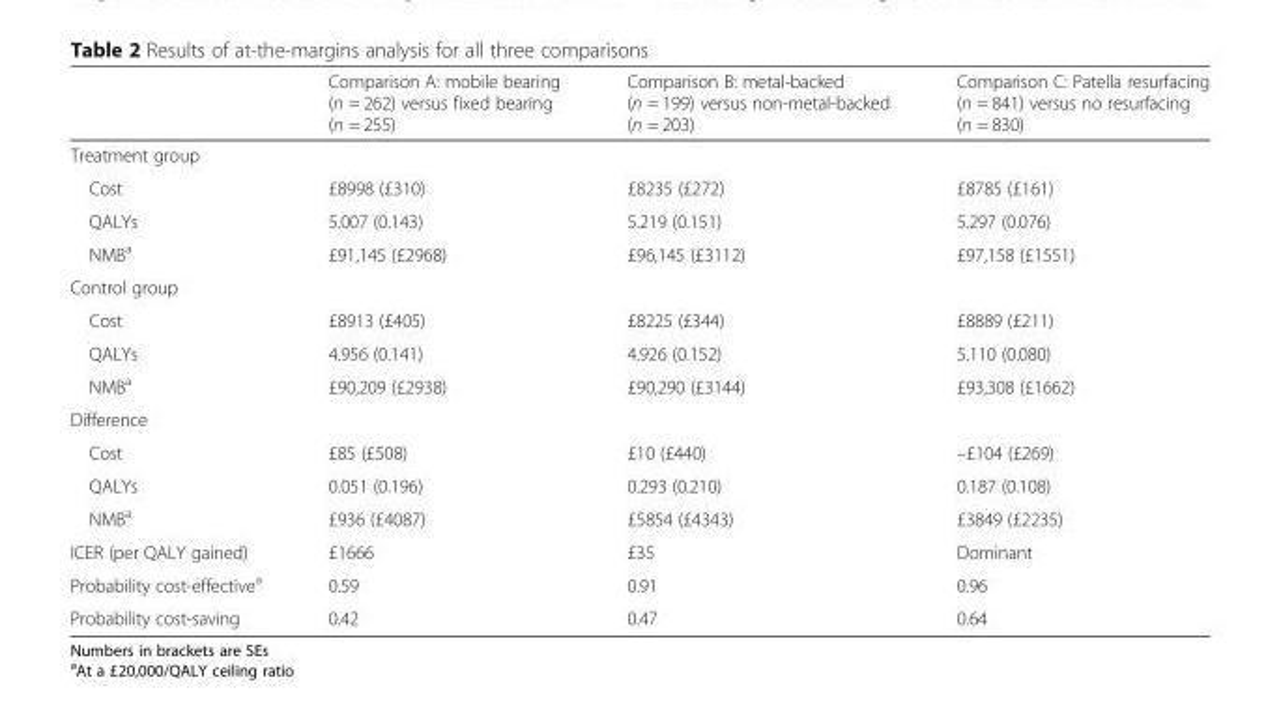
<table><thead><tr><td></td><td>Comparison A: mobile bearing (n = 262) versus fixed bearing (n = 255)</td><td>Comparison B: metal-backed (n = 199) versus non-metal-backed (n = 203)</td><td>Comparison C: Patella resurfacing (n = 841) versus no resurfacing (n = 830)</td></tr></thead><tbody><tr><td colspan="4">Treatment group</td></tr><tr><td>Cost</td><td>£8998 (£310)</td><td>£8235 (£272)</td><td>£8785 (£161)</td></tr><tr><td>QALYs</td><td>5.007 (0.143)</td><td>5.219 (0.151)</td><td>5.297 (0.076)</td></tr><tr><td>NMB<sup>a</sup></td><td>£91,145 (£2968)</td><td>£96,145 (£3112)</td><td>£97,158 (£1551)</td></tr><tr><td colspan="4">Control group</td></tr><tr><td>Cost</td><td>£8913 (£405)</td><td>£8225 (£344)</td><td>£8889 (£211)</td></tr><tr><td>QALYs</td><td>4.956 (0.141)</td><td>4.926 (0.152)</td><td>5.110 (0.080)</td></tr><tr><td>NMB<sup>a</sup></td><td>£90,209 (£2938)</td><td>£90,290 (£3144)</td><td>£93,308 (£1662)</td></tr><tr><td colspan="4">Difference</td></tr><tr><td>Cost</td><td>£85 (£508)</td><td>£10 (£440)</td><td>–£104 (£269)</td></tr><tr><td>QALYs</td><td>0.051 (0.196)</td><td>0.293 (0.210)</td><td>0.187 (0.108)</td></tr><tr><td>NMB<sup>a</sup></td><td>£936 (£4087)</td><td>£5854 (£4343)</td><td>£3849 (£2235)</td></tr><tr><td>ICER (per QALY gained)</td><td>£1666</td><td>£35</td><td>Dominant</td></tr><tr><td>Probability cost-effective<sup>a</sup></td><td>0.59</td><td>0.91</td><td>0.96</td></tr><tr><td>Probability cost-saving</td><td>0.42</td><td>0.47</td><td>0.64</td></tr></tbody></table>